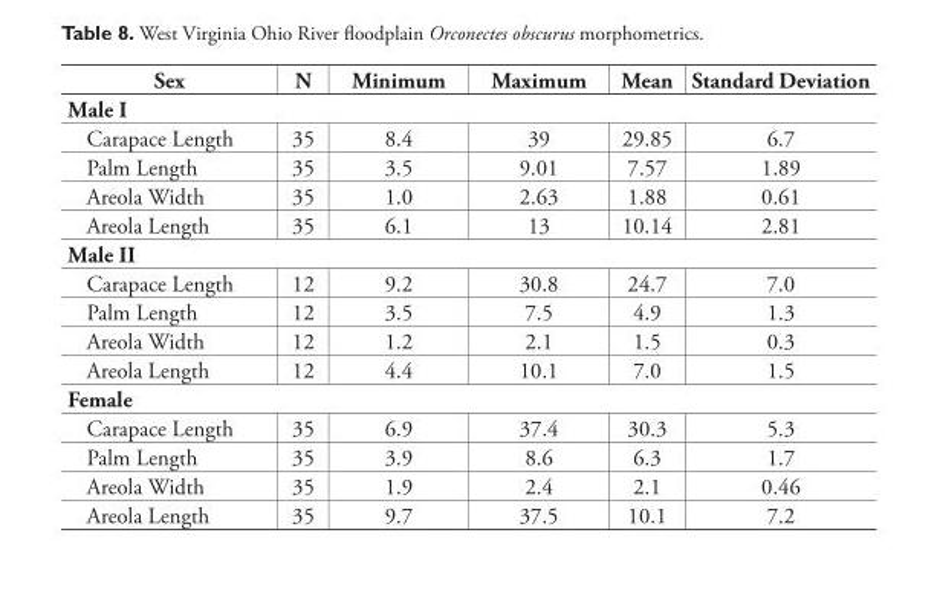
<table><thead><tr><td>Sex</td><td>N</td><td>Minimum</td><td>Maximum</td><td>Mean</td><td>Standard Deviation</td></tr></thead><tbody><tr><td colspan="6">Male I</td></tr><tr><td>Carapace Length</td><td>35</td><td>8.4</td><td>39</td><td>29.85</td><td>6.7</td></tr><tr><td>Palm Length</td><td>35</td><td>3.5</td><td>9.01</td><td>7.57</td><td>1.89</td></tr><tr><td>Areola Width</td><td>35</td><td>1.0</td><td>2.63</td><td>1.88</td><td>0.61</td></tr><tr><td>Areola Length</td><td>35</td><td>6.1</td><td>13</td><td>10.14</td><td>2.81</td></tr><tr><td colspan="6">Male II</td></tr><tr><td>Carapace Length</td><td>12</td><td>9.2</td><td>30.8</td><td>24.7</td><td>7.0</td></tr><tr><td>Palm Length</td><td>12</td><td>3.5</td><td>7.5</td><td>4.9</td><td>1.3</td></tr><tr><td>Areola Width</td><td>12</td><td>1.2</td><td>2.1</td><td>1.5</td><td>0.3</td></tr><tr><td>Areola Length</td><td>12</td><td>4.4</td><td>10.1</td><td>7.0</td><td>1.5</td></tr><tr><td colspan="6">Female</td></tr><tr><td>Carapace Length</td><td>35</td><td>6.9</td><td>37.4</td><td>30.3</td><td>5.3</td></tr><tr><td>Palm Length</td><td>35</td><td>3.9</td><td>8.6</td><td>6.3</td><td>1.7</td></tr><tr><td>Areola Width</td><td>35</td><td>1.9</td><td>2.4</td><td>2.1</td><td>0.46</td></tr><tr><td>Areola Length</td><td>35</td><td>9.7</td><td>37.5</td><td>10.1</td><td>7.2</td></tr></tbody></table>